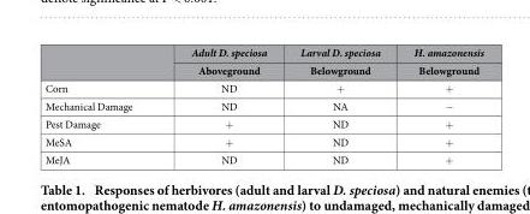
<table><thead><tr><td rowspan="2"></td><td rowspan="2">Adult D. speciosa Aboveground</td><td rowspan="2">Larval D. speciosa Belowground</td><td rowspan="2">H. amazonensis Belowground</td></tr><tr></tr></thead><tbody><tr><td>Corn</td><td>ND</td><td>+</td><td>+</td></tr><tr><td>Mechanical Damage</td><td>ND</td><td>NA</td><td>−</td></tr><tr><td>Pest Damage</td><td>+</td><td>ND</td><td>+</td></tr><tr><td>MeSA</td><td>+</td><td>ND</td><td>+</td></tr><tr><td>MeJA</td><td>ND</td><td>ND</td><td>+</td></tr></tbody></table>